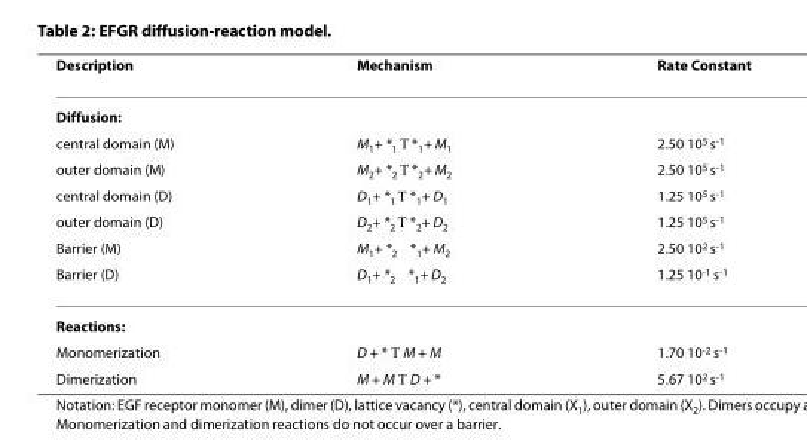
<table><thead><tr><td>Description</td><td>Mechanism</td><td>Rate Constant</td></tr></thead><tbody><tr><td colspan="3">Diffusion:</td></tr><tr><td>central domain (M)</td><td>M<sub>1</sub>+ *<sub>1</sub> → *<sub>1</sub>+ M<sub>1</sub></td><td>2.50 10<sup>5</sup> s<sup>-1</sup></td></tr><tr><td>outer domain (M)</td><td>M<sub>2</sub>+ *<sub>2</sub> → *<sub>2</sub>+ M<sub>2</sub></td><td>2.50 10<sup>5</sup> s<sup>-1</sup></td></tr><tr><td>central domain (D)</td><td>D<sub>1</sub>+ *<sub>1</sub> → *<sub>1</sub>+ D<sub>1</sub></td><td>1.25 10<sup>5</sup> s<sup>-1</sup></td></tr><tr><td>outer domain (D)</td><td>D<sub>2</sub>+ *<sub>2</sub> → *<sub>2</sub>+ D<sub>2</sub></td><td>1.25 10<sup>5</sup> s<sup>-1</sup></td></tr><tr><td>Barrier (M)</td><td>M<sub>1</sub>+ *<sub>2</sub> ↔ *<sub>1</sub>+ M<sub>2</sub></td><td>2.50 10<sup>2</sup> s<sup>-1</sup></td></tr><tr><td>Barrier (D)</td><td>D<sub>1</sub>+ *<sub>2</sub> ↔ *<sub>1</sub>+ D<sub>2</sub></td><td>1.25 10<sup>-1</sup> s<sup>-1</sup></td></tr><tr><td colspan="3">Reactions:</td></tr><tr><td>Monomerization</td><td>D + * → M + M</td><td>1.70 10<sup>-2</sup> s<sup>-1</sup></td></tr><tr><td>Dimerization</td><td>M + M → D + *</td><td>5.67 10<sup>2</sup> s<sup>-1</sup></td></tr></tbody></table>